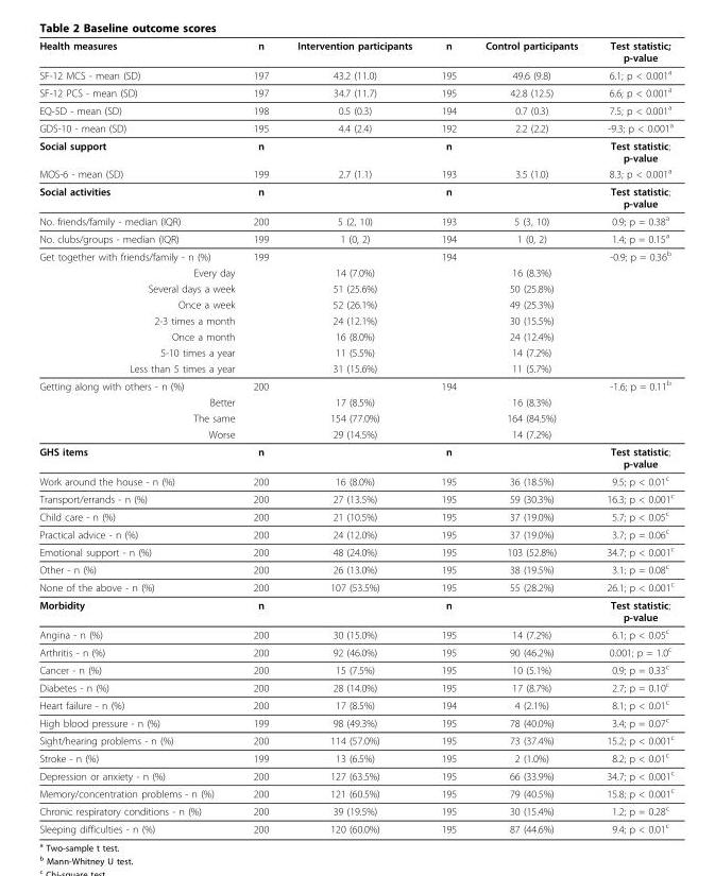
<table><thead><tr><td>Health measures</td><td>n</td><td>Intervention participants</td><td>n</td><td>Control participants</td><td>Test statistic; p-value</td></tr></thead><tbody><tr><td>SF-12 MCS - mean (SD)</td><td>197</td><td>43.2 (11.0)</td><td>195</td><td>49.6 (9.8)</td><td>6.1; p &lt; 0.001<sup>a</sup></td></tr><tr><td>SF-12 PCS - mean (SD)</td><td>197</td><td>34.7 (11.7)</td><td>195</td><td>42.8 (12.5)</td><td>6.6; p &lt; 0.001<sup>a</sup></td></tr><tr><td>EQ-5D - mean (SD)</td><td>198</td><td>0.5 (0.3)</td><td>194</td><td>0.7 (0.3)</td><td>7.5; p &lt; 0.001<sup>a</sup></td></tr><tr><td>GDS-10 - mean (SD)</td><td>195</td><td>4.4 (2.4)</td><td>192</td><td>2.2 (2.2)</td><td>-9.3; p &lt; 0.001<sup>a</sup></td></tr><tr><td>Social support</td><td>n</td><td></td><td>n</td><td></td><td>Test statistic; p-value</td></tr><tr><td>MOS-6 - mean (SD)</td><td>199</td><td>2.7 (1.1)</td><td>193</td><td>3.5 (1.0)</td><td>8.3; p &lt; 0.001<sup>a</sup></td></tr><tr><td>Social activities</td><td>n</td><td></td><td>n</td><td></td><td>Test statistic; p-value</td></tr><tr><td>No. friends/family - median (IQR)</td><td>200</td><td>5 (2, 10)</td><td>193</td><td>5 (3, 10)</td><td>0.9; p = 0.38<sup>a</sup></td></tr><tr><td>No. clubs/groups - median (IQR)</td><td>199</td><td>1 (0, 2)</td><td>194</td><td>1 (0, 2)</td><td>1.4; p = 0.15<sup>a</sup></td></tr><tr><td>Get together with friends/family - n (%)</td><td>199</td><td></td><td>194</td><td></td><td>-0.9; p = 0.36<sup>b</sup></td></tr><tr><td>Every day</td><td></td><td>14 (7.0%)</td><td></td><td>16 (8.3%)</td><td></td></tr><tr><td>Several days a week</td><td></td><td>51 (25.6%)</td><td></td><td>50 (25.8%)</td><td></td></tr><tr><td>Once a week</td><td></td><td>52 (26.1%)</td><td></td><td>49 (25.3%)</td><td></td></tr><tr><td>2-3 times a month</td><td></td><td>24 (12.1%)</td><td></td><td>30 (15.5%)</td><td></td></tr><tr><td>Once a month</td><td></td><td>16 (8.0%)</td><td></td><td>24 (12.4%)</td><td></td></tr><tr><td>5-10 times a year</td><td></td><td>11 (5.5%)</td><td></td><td>14 (7.2%)</td><td></td></tr><tr><td>Less than 5 times a year</td><td></td><td>31 (15.6%)</td><td></td><td>11 (5.7%)</td><td></td></tr><tr><td>Getting along with others - n (%)</td><td>200</td><td></td><td>194</td><td></td><td>-1.6; p = 0.11<sup>b</sup></td></tr><tr><td>Better</td><td></td><td>17 (8.5%)</td><td></td><td>16 (8.3%)</td><td></td></tr><tr><td>The same</td><td></td><td>154 (77.0%)</td><td></td><td>164 (84.5%)</td><td></td></tr><tr><td>Worse</td><td></td><td>29 (14.5%)</td><td></td><td>14 (7.2%)</td><td></td></tr><tr><td>GHS items</td><td>n</td><td></td><td>n</td><td></td><td>Test statistic; p-value</td></tr><tr><td>Work around the house - n (%)</td><td>200</td><td>16 (8.0%)</td><td>195</td><td>36 (18.5%)</td><td>9.5; p &lt; 0.01<sup>c</sup></td></tr><tr><td>Transport/errands - n (%)</td><td>200</td><td>27 (13.5%)</td><td>195</td><td>59 (30.3%)</td><td>16.3; p &lt; 0.001<sup>c</sup></td></tr><tr><td>Child care - n (%)</td><td>200</td><td>21 (10.5%)</td><td>195</td><td>37 (19.0%)</td><td>5.7; p &lt; 0.05<sup>c</sup></td></tr><tr><td>Practical advice - n (%)</td><td>200</td><td>24 (12.0%)</td><td>195</td><td>37 (19.0%)</td><td>3.7; p = 0.06<sup>c</sup></td></tr><tr><td>Emotional support - n (%)</td><td>200</td><td>48 (24.0%)</td><td>195</td><td>103 (52.8%)</td><td>34.7; p &lt; 0.001<sup>c</sup></td></tr><tr><td>Other - n (%)</td><td>200</td><td>26 (13.0%)</td><td>195</td><td>38 (19.5%)</td><td>3.1; p = 0.08<sup>c</sup></td></tr><tr><td>None of the above - n (%)</td><td>200</td><td>107 (53.5%)</td><td>195</td><td>55 (28.2%)</td><td>26.1; p &lt; 0.001<sup>c</sup></td></tr><tr><td>Morbidity</td><td>n</td><td></td><td>n</td><td></td><td>Test statistic; p-value</td></tr><tr><td>Angina - n (%)</td><td>200</td><td>30 (15.0%)</td><td>195</td><td>14 (7.2%)</td><td>6.1; p &lt; 0.05<sup>c</sup></td></tr><tr><td>Arthritis - n (%)</td><td>200</td><td>92 (46.0%)</td><td>195</td><td>90 (46.2%)</td><td>0.001; p = 1.0<sup>c</sup></td></tr><tr><td>Cancer - n (%)</td><td>200</td><td>15 (7.5%)</td><td>195</td><td>10 (5.1%)</td><td>0.9; p = 0.33<sup>c</sup></td></tr><tr><td>Diabetes - n (%)</td><td>200</td><td>28 (14.0%)</td><td>195</td><td>17 (8.7%)</td><td>2.7; p = 0.10<sup>c</sup></td></tr><tr><td>Heart failure - n (%)</td><td>200</td><td>17 (8.5%)</td><td>194</td><td>4 (2.1%)</td><td>8.1; p &lt; 0.01<sup>c</sup></td></tr><tr><td>High blood pressure - n (%)</td><td>199</td><td>98 (49.3%)</td><td>195</td><td>78 (40.0%)</td><td>3.4; p = 0.07<sup>c</sup></td></tr><tr><td>Sight/hearing problems - n (%)</td><td>200</td><td>114 (57.0%)</td><td>195</td><td>73 (37.4%)</td><td>15.2; p &lt; 0.001<sup>c</sup></td></tr><tr><td>Stroke - n (%)</td><td>199</td><td>13 (6.5%)</td><td>195</td><td>2 (1.0%)</td><td>8.2; p &lt; 0.01<sup>c</sup></td></tr><tr><td>Depression or anxiety - n (%)</td><td>200</td><td>127 (63.5%)</td><td>195</td><td>66 (33.9%)</td><td>34.7; p &lt; 0.001<sup>c</sup></td></tr><tr><td>Memory/concentration problems - n (%)</td><td>200</td><td>121 (60.5%)</td><td>195</td><td>79 (40.5%)</td><td>15.8; p &lt; 0.001<sup>c</sup></td></tr><tr><td>Chronic respiratory conditions - n (%)</td><td>200</td><td>39 (19.5%)</td><td>195</td><td>30 (15.4%)</td><td>1.2; p = 0.28<sup>c</sup></td></tr><tr><td>Sleeping difficulties - n (%)</td><td>200</td><td>120 (60.0%)</td><td>195</td><td>87 (44.6%)</td><td>9.4; p &lt; 0.01<sup>c</sup></td></tr></tbody></table>